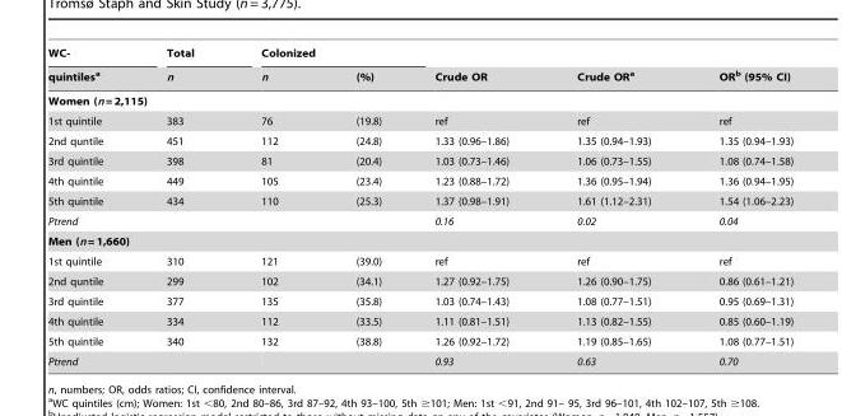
<table><thead><tr><td rowspan="2">WC- quintiles<sup>a</sup></td><td rowspan="2">Total n</td><td colspan="2">Colonized</td><td rowspan="2">Crude OR</td><td rowspan="2">Crude OR<sup>a</sup></td><td rowspan="2">OR<sup>b</sup> (95% CI)</td></tr><tr><td>n</td><td>(%)</td></tr></thead><tbody><tr><td colspan="7">Women (n = 2,115)</td></tr><tr><td>1st quintile</td><td>383</td><td>76</td><td>(19.8)</td><td>ref</td><td>ref</td><td>ref</td></tr><tr><td>2nd quntile</td><td>451</td><td>112</td><td>(24.8)</td><td>1.33 (0.96–1.86)</td><td>1.35 (0.94–1.93)</td><td>1.35 (0.94–1.93)</td></tr><tr><td>3rd quintile</td><td>398</td><td>81</td><td>(20.4)</td><td>1.03 (0.73–1.46)</td><td>1.06 (0.73–1.55)</td><td>1.08 (0.74–1.58)</td></tr><tr><td>4th quintile</td><td>449</td><td>105</td><td>(23.4)</td><td>1.23 (0.88–1.72)</td><td>1.36 (0.95–1.94)</td><td>1.36 (0.94–1.95)</td></tr><tr><td>5th quintile</td><td>434</td><td>110</td><td>(25.3)</td><td>1.37 (0.98–1.91)</td><td>1.61 (1.12–2.31)</td><td>1.54 (1.06–2.23)</td></tr><tr><td>Ptrend</td><td></td><td colspan="2"></td><td>0.16</td><td>0.02</td><td>0.04</td></tr><tr><td colspan="7">Men (n = 1,660)</td></tr><tr><td>1st quintile</td><td>310</td><td>121</td><td>(39.0)</td><td>ref</td><td>ref</td><td>ref</td></tr><tr><td>2nd quntile</td><td>299</td><td>102</td><td>(34.1)</td><td>1.27 (0.92–1.75)</td><td>1.26 (0.90–1.75)</td><td>0.86 (0.61–1.21)</td></tr><tr><td>3rd quintile</td><td>377</td><td>135</td><td>(35.8)</td><td>1.03 (0.74–1.43)</td><td>1.08 (0.77–1.51)</td><td>0.95 (0.69–1.31)</td></tr><tr><td>4th quintile</td><td>334</td><td>112</td><td>(33.5)</td><td>1.11 (0.81–1.51)</td><td>1.13 (0.82–1.55)</td><td>0.85 (0.60–1.19)</td></tr><tr><td>5th quintile</td><td>340</td><td>132</td><td>(38.8)</td><td>1.26 (0.92–1.72)</td><td>1.19 (0.85–1.65)</td><td>1.08 (0.77–1.51)</td></tr><tr><td>Ptrend</td><td></td><td colspan="2"></td><td>0.93</td><td>0.63</td><td>0.70</td></tr></tbody></table>